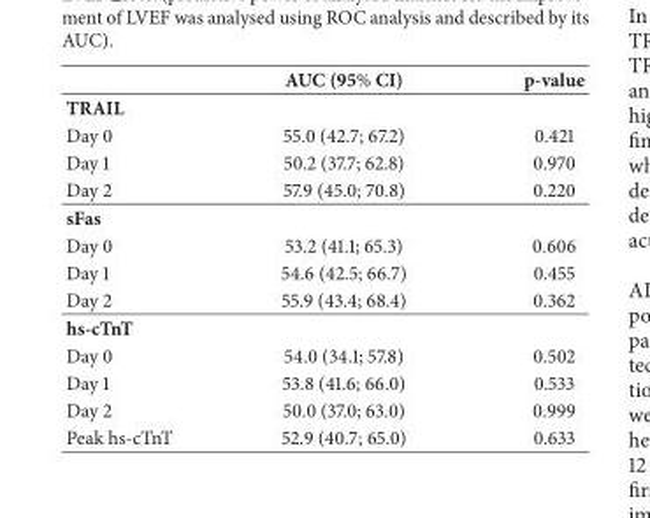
<table><thead><tr><td></td><td>AUC (95% CI)</td><td>p-value</td></tr></thead><tbody><tr><td colspan="3">TRAIL</td></tr><tr><td>Day 0</td><td>55.0 (42.7; 67.2)</td><td>0.421</td></tr><tr><td>Day 1</td><td>50.2 (37.7; 62.8)</td><td>0.970</td></tr><tr><td>Day 2</td><td>57.9 (45.0; 70.8)</td><td>0.220</td></tr><tr><td colspan="3">sFas</td></tr><tr><td>Day 0</td><td>53.2 (41.1; 65.3)</td><td>0.606</td></tr><tr><td>Day 1</td><td>54.6 (42.5; 66.7)</td><td>0.455</td></tr><tr><td>Day 2</td><td>55.9 (43.4; 68.4)</td><td>0.362</td></tr><tr><td colspan="3">hs-cTnT</td></tr><tr><td>Day 0</td><td>54.0 (34.1; 57.8)</td><td>0.502</td></tr><tr><td>Day 1</td><td>53.8 (41.6; 66.0)</td><td>0.533</td></tr><tr><td>Day 2</td><td>50.0 (37.0; 63.0)</td><td>0.999</td></tr><tr><td>Peak hs-cTnT</td><td>52.9 (40.7; 65.0)</td><td>0.633</td></tr></tbody></table>